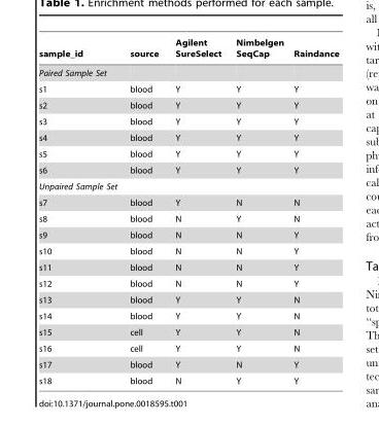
<table><thead><tr><td>sample_id</td><td>source</td><td>Agilent SureSelect</td><td>Nimbelgen SeqCap</td><td>Raindance</td></tr></thead><tbody><tr><td colspan="5">Paired Sample Set</td></tr><tr><td>s1</td><td>blood</td><td>Y</td><td>Y</td><td>Y</td></tr><tr><td>s2</td><td>blood</td><td>Y</td><td>Y</td><td>Y</td></tr><tr><td>s3</td><td>blood</td><td>Y</td><td>Y</td><td>Y</td></tr><tr><td>s4</td><td>blood</td><td>Y</td><td>Y</td><td>Y</td></tr><tr><td>s5</td><td>blood</td><td>Y</td><td>Y</td><td>Y</td></tr><tr><td>s6</td><td>blood</td><td>Y</td><td>Y</td><td>Y</td></tr><tr><td colspan="5">Unpaired Sample Set</td></tr><tr><td>s7</td><td>blood</td><td>Y</td><td>N</td><td>N</td></tr><tr><td>s8</td><td>blood</td><td>N</td><td>Y</td><td>N</td></tr><tr><td>s9</td><td>blood</td><td>N</td><td>N</td><td>Y</td></tr><tr><td>s10</td><td>blood</td><td>N</td><td>N</td><td>Y</td></tr><tr><td>s11</td><td>blood</td><td>N</td><td>N</td><td>Y</td></tr><tr><td>s12</td><td>blood</td><td>N</td><td>N</td><td>Y</td></tr><tr><td>s13</td><td>blood</td><td>Y</td><td>Y</td><td>N</td></tr><tr><td>s14</td><td>blood</td><td>Y</td><td>Y</td><td>N</td></tr><tr><td>s15</td><td>cell</td><td>Y</td><td>Y</td><td>N</td></tr><tr><td>s16</td><td>cell</td><td>Y</td><td>Y</td><td>N</td></tr><tr><td>s17</td><td>blood</td><td>Y</td><td>N</td><td>Y</td></tr><tr><td>s18</td><td>blood</td><td>N</td><td>Y</td><td>Y</td></tr></tbody></table>